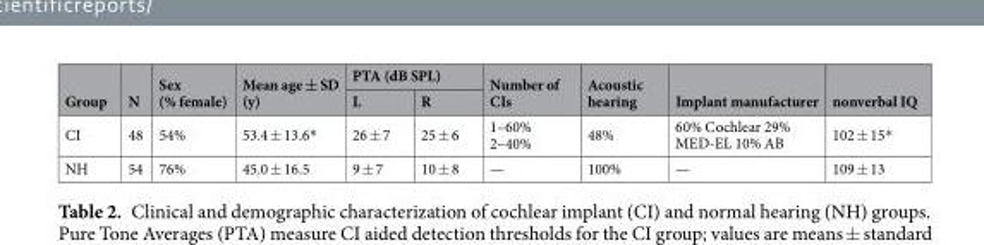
<table><thead><tr><td rowspan="2">Group</td><td rowspan="2">N</td><td rowspan="2">Sex (% female)</td><td rowspan="2">Mean age ± SD (y)</td><td colspan="2">PTA (dB SPL)</td><td rowspan="2">Number of CIs</td><td rowspan="2">Acoustic hearing</td><td rowspan="2">Implant manufacturer</td><td rowspan="2">nonverbal IQ</td></tr><tr><td>L</td><td>R</td></tr></thead><tbody><tr><td>CI</td><td>48</td><td>54%</td><td>53.4 ± 13.6*</td><td>26 ± 7</td><td>25 ± 6</td><td>1–60% 2–40%</td><td>48%</td><td>60% Cochlear 29% MED-EL 10% AB</td><td>102 ± 15*</td></tr><tr><td>NH</td><td>54</td><td>76%</td><td>45.0 ± 16.5</td><td>9 ± 7</td><td>10 ± 8</td><td>—</td><td>100%</td><td>—</td><td>109 ± 13</td></tr></tbody></table>